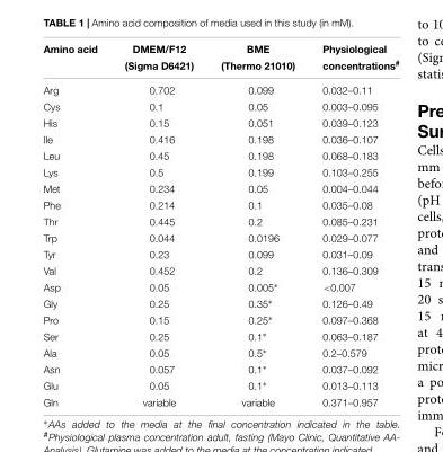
<table><thead><tr><td>Amino acid</td><td>DMEM/F12 (Sigma D6421)</td><td>BME (Thermo 21010)</td><td>Physiological concentrations<sup>#</sup></td></tr></thead><tbody><tr><td>Arg</td><td>0.702</td><td>0.099</td><td>0.032–0.11</td></tr><tr><td>Cys</td><td>0.1</td><td>0.05</td><td>0.003–0.095</td></tr><tr><td>His</td><td>0.15</td><td>0.051</td><td>0.039–0.123</td></tr><tr><td>Ile</td><td>0.416</td><td>0.198</td><td>0.036–0.107</td></tr><tr><td>Leu</td><td>0.45</td><td>0.198</td><td>0.068–0.183</td></tr><tr><td>Lys</td><td>0.5</td><td>0.199</td><td>0.103–0.255</td></tr><tr><td>Met</td><td>0.234</td><td>0.05</td><td>0.004–0.044</td></tr><tr><td>Phe</td><td>0.214</td><td>0.1</td><td>0.035–0.08</td></tr><tr><td>Thr</td><td>0.445</td><td>0.2</td><td>0.085–0.231</td></tr><tr><td>Trp</td><td>0.044</td><td>0.0196</td><td>0.029–0.077</td></tr><tr><td>Tyr</td><td>0.23</td><td>0.099</td><td>0.031–0.09</td></tr><tr><td>Val</td><td>0.452</td><td>0.2</td><td>0.136–0.309</td></tr><tr><td>Asp</td><td>0.05</td><td>0.005∗</td><td>&lt;0.007</td></tr><tr><td>Gly</td><td>0.25</td><td>0.35∗</td><td>0.126–0.49</td></tr><tr><td>Pro</td><td>0.15</td><td>0.25∗</td><td>0.097–0.368</td></tr><tr><td>Ser</td><td>0.25</td><td>0.1∗</td><td>0.063–0.187</td></tr><tr><td>Ala</td><td>0.05</td><td>0.5∗</td><td>0.2–0.579</td></tr><tr><td>Asn</td><td>0.057</td><td>0.1∗</td><td>0.037–0.092</td></tr><tr><td>Glu</td><td>0.05</td><td>0.1∗</td><td>0.013–0.113</td></tr><tr><td>Gln</td><td>variable</td><td>variable</td><td>0.371–0.957</td></tr></tbody></table>